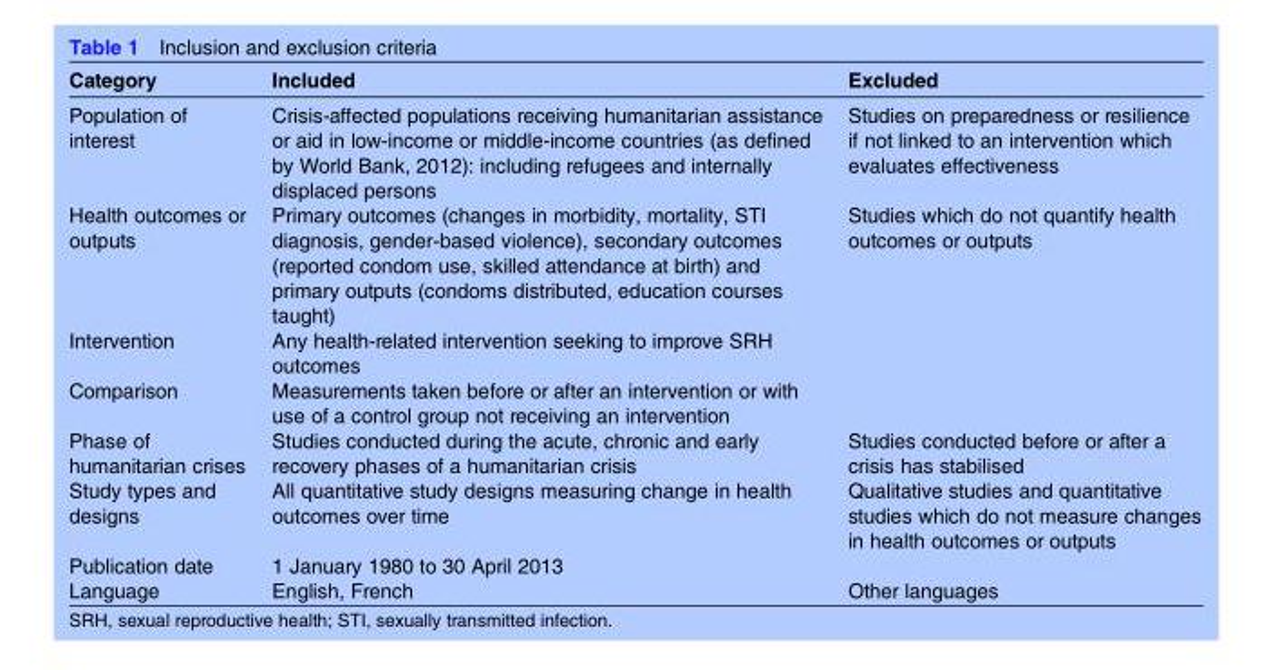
<table><thead><tr><td>Category</td><td>Included</td><td>Excluded</td></tr></thead><tbody><tr><td>Population of interest</td><td>Crisis-affected populations receiving humanitarian assistance or aid in low-income or middle-income countries (as defined by World Bank, 2012): including refugees and internally displaced persons</td><td>Studies on preparedness or resilience if not linked to an intervention which evaluates effectiveness</td></tr><tr><td>Health outcomes or outputs</td><td>Primary outcomes (changes in morbidity, mortality, STI diagnosis, gender-based violence), secondary outcomes (reported condom use, skilled attendance at birth) and primary outputs (condoms distributed, education courses taught)</td><td>Studies which do not quantify health outcomes or outputs</td></tr><tr><td>Intervention</td><td>Any health-related intervention seeking to improve SRH outcomes</td><td></td></tr><tr><td>Comparison</td><td>Measurements taken before or after an intervention or with use of a control group not receiving an intervention</td><td></td></tr><tr><td>Phase of humanitarian crises</td><td>Studies conducted during the acute, chronic and early recovery phases of a humanitarian crisis</td><td>Studies conducted before or after a crisis has stabilised</td></tr><tr><td>Study types and designs</td><td>All quantitative study designs measuring change in health outcomes over time</td><td>Qualitative studies and quantitative studies which do not measure changes in health outcomes or outputs</td></tr><tr><td>Publication date</td><td>1 January 1980 to 30 April 2013</td><td></td></tr><tr><td>Language</td><td>English, French</td><td>Other languages</td></tr></tbody></table>